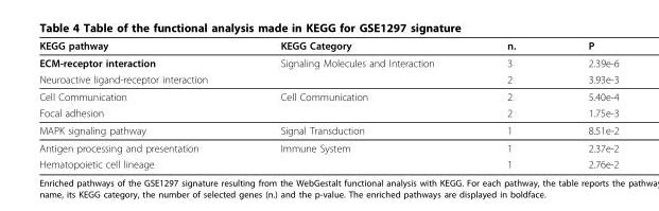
<table><thead><tr><td>KEGG pathway</td><td>KEGG Category</td><td>n.</td><td>P</td></tr></thead><tbody><tr><td>ECM-receptor interaction</td><td>Signaling Molecules and Interaction</td><td>3</td><td>2.39e-6</td></tr><tr><td>Neuroactive ligand-receptor interaction</td><td></td><td>2</td><td>3.93e-3</td></tr><tr><td>Cell Communication</td><td>Cell Communication</td><td>2</td><td>5.40e-4</td></tr><tr><td>Focal adhesion</td><td></td><td>2</td><td>1.75e-3</td></tr><tr><td>MAPK signaling pathway</td><td>Signal Transduction</td><td>1</td><td>8.51e-2</td></tr><tr><td>Antigen processing and presentation</td><td>Immune System</td><td>1</td><td>2.37e-2</td></tr><tr><td>Hematopoietic cell lineage</td><td></td><td>1</td><td>2.76e-2</td></tr></tbody></table>